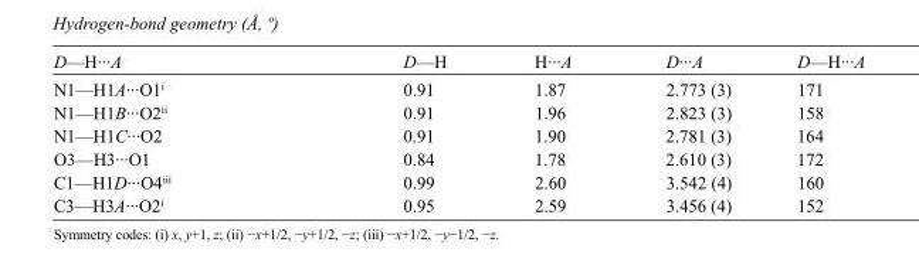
<table><tbody><tr><td>D—H···A</td><td>D—H</td><td>H···A</td><td>D···A</td><td>D—H···A</td></tr><tr><td>N1—H1A···O1<sup>i</sup></td><td>0.91</td><td>1.87</td><td>2.773 (3)</td><td>171</td></tr><tr><td>N1—H1B···O2<sup>ii</sup></td><td>0.91</td><td>1.96</td><td>2.823 (3)</td><td>158</td></tr><tr><td>N1—H1C···O2</td><td>0.91</td><td>1.90</td><td>2.781 (3)</td><td>164</td></tr><tr><td>O3—H3···O1</td><td>0.84</td><td>1.78</td><td>2.610 (3)</td><td>172</td></tr><tr><td>C1—H1D···O4<sup>iii</sup></td><td>0.99</td><td>2.60</td><td>3.542 (4)</td><td>160</td></tr><tr><td>C3—H3A···O2<sup>i</sup></td><td>0.95</td><td>2.59</td><td>3.456 (4)</td><td>152</td></tr></tbody></table>